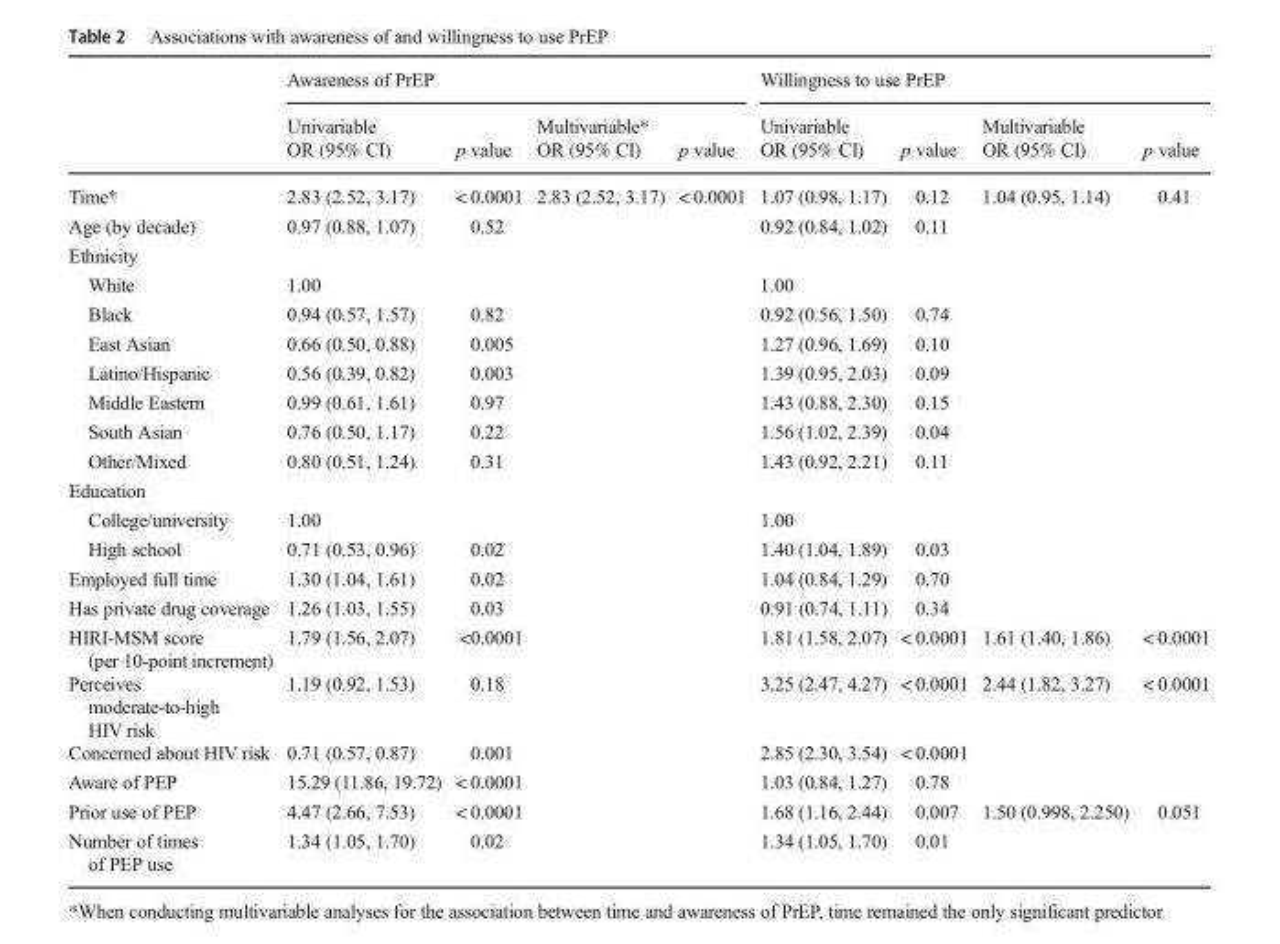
<table><thead><tr><td rowspan="3"></td><td colspan="4">Awareness of PrEP</td><td colspan="4">Willingness to use PrEP</td></tr><tr><td rowspan="2">Univariable OR (95% CI)</td><td rowspan="2">p value</td><td rowspan="2">Multivariable* OR (95% CI)</td><td rowspan="2">p value</td><td rowspan="2">Univariable OR (95% CI)</td><td rowspan="2">p value</td><td rowspan="2">Multivariable OR (95% CI)</td><td rowspan="2">p value</td></tr><tr></tr></thead><tbody><tr><td>Time*</td><td>2.83 (2.52, 3.17)</td><td>&lt; 0.0001</td><td>2.83 (2.52, 3.17)</td><td>&lt; 0.0001</td><td>1.07 (0.98, 1.17)</td><td>0.12</td><td>1.04 (0.95, 1.14)</td><td>0.41</td></tr><tr><td>Age (by decade)</td><td>0.97 (0.88, 1.07)</td><td>0.52</td><td></td><td></td><td>0.92 (0.84, 1.02)</td><td>0.11</td><td></td><td></td></tr><tr><td colspan="9">Ethnicity</td></tr><tr><td>White</td><td>1.00</td><td></td><td></td><td></td><td>1.00</td><td></td><td></td><td></td></tr><tr><td>Black</td><td>0.94 (0.57, 1.57)</td><td>0.82</td><td></td><td></td><td>0.92 (0.56, 1.50)</td><td>0.74</td><td></td><td></td></tr><tr><td>East Asian</td><td>0.66 (0.50, 0.88)</td><td>0.005</td><td></td><td></td><td>1.27 (0.96, 1.69)</td><td>0.10</td><td></td><td></td></tr><tr><td>Latino/Hispanic</td><td>0.56 (0.39, 0.82)</td><td>0.003</td><td></td><td></td><td>1.39 (0.95, 2.03)</td><td>0.09</td><td></td><td></td></tr><tr><td>Middle Eastern</td><td>0.99 (0.61, 1.61)</td><td>0.97</td><td></td><td></td><td>1.43 (0.88, 2.30)</td><td>0.15</td><td></td><td></td></tr><tr><td>South Asian</td><td>0.76 (0.50, 1.17)</td><td>0.22</td><td></td><td></td><td>1.56 (1.02, 2.39)</td><td>0.04</td><td></td><td></td></tr><tr><td>Other/Mixed</td><td>0.80 (0.51, 1.24)</td><td>0.31</td><td></td><td></td><td>1.43 (0.92, 2.21)</td><td>0.11</td><td></td><td></td></tr><tr><td colspan="9">Education</td></tr><tr><td>College/university</td><td>1.00</td><td></td><td></td><td></td><td>1.00</td><td></td><td></td><td></td></tr><tr><td>High school</td><td>0.71 (0.53, 0.96)</td><td>0.02</td><td></td><td></td><td>1.40 (1.04, 1.89)</td><td>0.03</td><td></td><td></td></tr><tr><td>Employed full time</td><td>1.30 (1.04, 1.61)</td><td>0.02</td><td></td><td></td><td>1.04 (0.84, 1.29)</td><td>0.70</td><td></td><td></td></tr><tr><td>Has private drug coverage</td><td>1.26 (1.03, 1.55)</td><td>0.03</td><td></td><td></td><td>0.91 (0.74, 1.11)</td><td>0.34</td><td></td><td></td></tr><tr><td>HIRI-MSM score (per 10-point increment)</td><td>1.79 (1.56, 2.07)</td><td>&lt;0.0001</td><td></td><td></td><td>1.81 (1.58, 2.07)</td><td>&lt; 0.0001</td><td>1.61 (1.40, 1.86)</td><td>&lt; 0.0001</td></tr><tr><td>Perceives moderate-to-high HIV risk</td><td>1.19 (0.92, 1.53)</td><td>0.18</td><td></td><td></td><td>3.25 (2.47, 4.27)</td><td>&lt; 0.0001</td><td>2.44 (1.82, 3.27)</td><td>&lt; 0.0001</td></tr><tr><td>Concerned about HIV risk</td><td>0.71 (0.57, 0.87)</td><td>0.001</td><td></td><td></td><td>2.85 (2.30, 3.54)</td><td>&lt; 0.0001</td><td></td><td></td></tr><tr><td>Aware of PEP</td><td>15.29 (11.86, 19.72)</td><td>&lt; 0.0001</td><td></td><td></td><td>1.03 (0.84, 1.27)</td><td>0.78</td><td></td><td></td></tr><tr><td>Prior use of PEP</td><td>4.47 (2.66, 7.53)</td><td>&lt; 0.0001</td><td></td><td></td><td>1.68 (1.16, 2.44)</td><td>0.007</td><td>1.50 (0.998, 2.250)</td><td>0.051</td></tr><tr><td>Number of times of PEP use</td><td>1.34 (1.05, 1.70)</td><td>0.02</td><td></td><td></td><td>1.34 (1.05, 1.70)</td><td>0.01</td><td></td><td></td></tr></tbody></table>